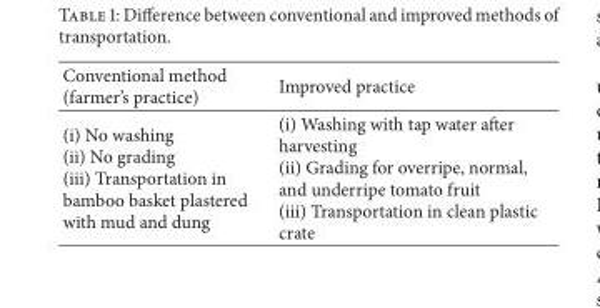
<table><thead><tr><td>Conventional method (farmer’s practice)</td><td>Improved practice</td></tr></thead><tbody><tr><td>(i) No washing (ii) No grading (iii) Transportation in bamboo basket plastered with mud and dung</td><td>(i) Washing with tap water after harvesting (ii) Grading for overripe, normal, and underripe tomato fruit (iii) Transportation in clean plastic crate</td></tr></tbody></table>